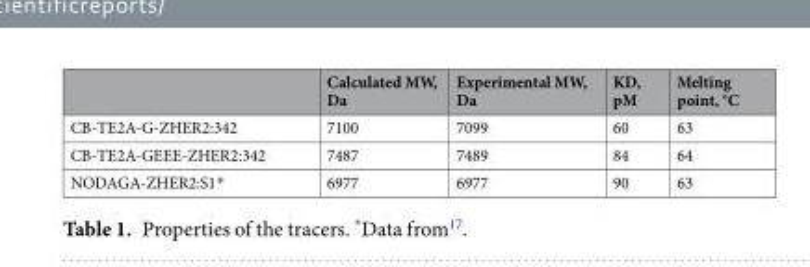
<table><thead><tr><td></td><td>Calculated MW, Da</td><td>Experimental MW, Da</td><td>KD, pM</td><td>Melting point, °C</td></tr></thead><tbody><tr><td>CB-TE2A-G-ZHER2:342</td><td>7100</td><td>7099</td><td>60</td><td>63</td></tr><tr><td>CB-TE2A-GEEE-ZHER2:342</td><td>7487</td><td>7489</td><td>84</td><td>64</td></tr><tr><td>NODAGA-ZHER2:S1*</td><td>6977</td><td>6977</td><td>90</td><td>63</td></tr></tbody></table>